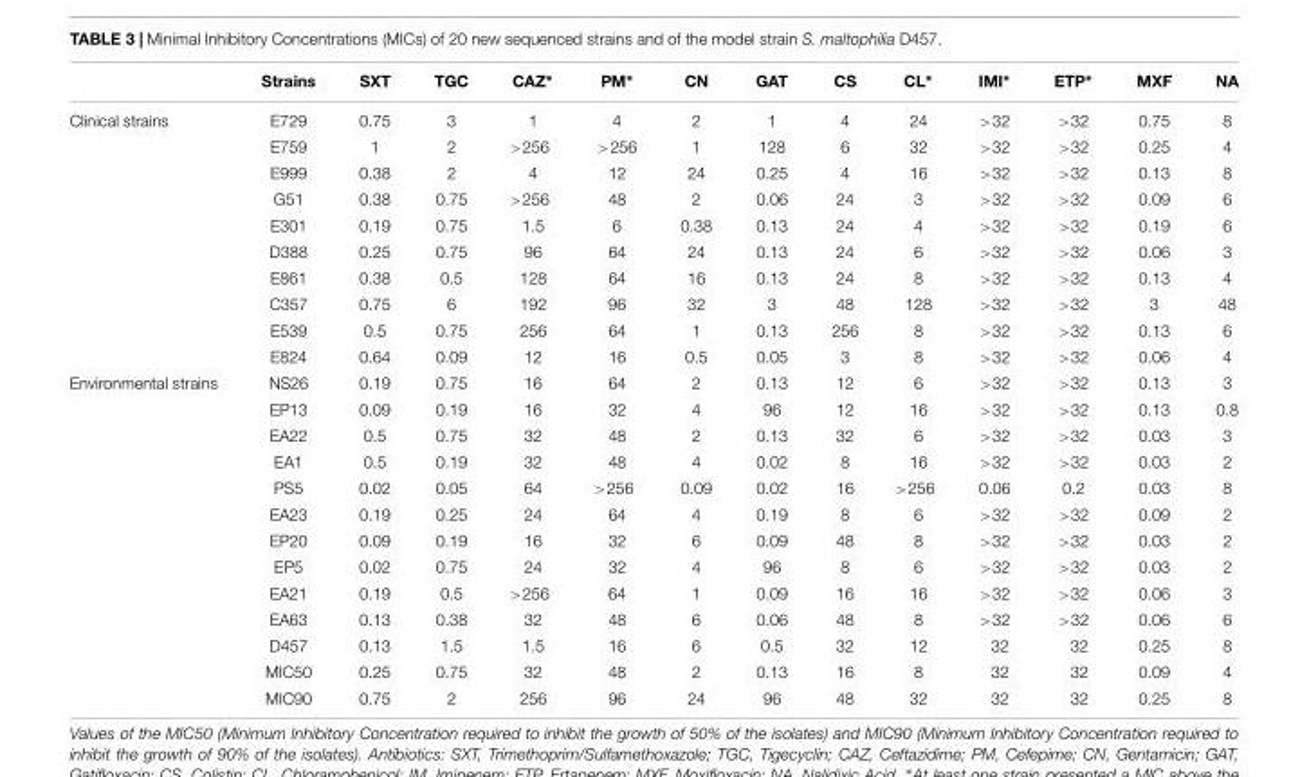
<table><thead><tr><td></td><td>Strains</td><td>SXT</td><td>TGC</td><td>CAZ∗</td><td>PM∗</td><td>CN</td><td>GAT</td><td>CS</td><td>CL∗</td><td>IMI∗</td><td>ETP∗</td><td>MXF</td><td>NA</td></tr></thead><tbody><tr><td rowspan="10">Clinical strains</td><td>E729</td><td>0.75</td><td>3</td><td>1</td><td>4</td><td>2</td><td>1</td><td>4</td><td>24</td><td>&gt;32</td><td>&gt;32</td><td>0.75</td><td>8</td></tr><tr><td>E759</td><td>1</td><td>2</td><td>&gt;256</td><td>&gt;256</td><td>1</td><td>128</td><td>6</td><td>32</td><td>&gt;32</td><td>&gt;32</td><td>0.25</td><td>4</td></tr><tr><td>E999</td><td>0.38</td><td>2</td><td>4</td><td>12</td><td>24</td><td>0.25</td><td>4</td><td>16</td><td>&gt;32</td><td>&gt;32</td><td>0.13</td><td>8</td></tr><tr><td>G51</td><td>0.38</td><td>0.75</td><td>&gt;256</td><td>48</td><td>2</td><td>0.06</td><td>24</td><td>3</td><td>&gt;32</td><td>&gt;32</td><td>0.09</td><td>6</td></tr><tr><td>E301</td><td>0.19</td><td>0.75</td><td>1.5</td><td>6</td><td>0.38</td><td>0.13</td><td>24</td><td>4</td><td>&gt;32</td><td>&gt;32</td><td>0.19</td><td>6</td></tr><tr><td>D388</td><td>0.25</td><td>0.75</td><td>96</td><td>64</td><td>24</td><td>0.13</td><td>24</td><td>6</td><td>&gt;32</td><td>&gt;32</td><td>0.06</td><td>3</td></tr><tr><td>E861</td><td>0.38</td><td>0.5</td><td>128</td><td>64</td><td>16</td><td>0.13</td><td>24</td><td>8</td><td>&gt;32</td><td>&gt;32</td><td>0.13</td><td>4</td></tr><tr><td>C357</td><td>0.75</td><td>6</td><td>192</td><td>96</td><td>32</td><td>3</td><td>48</td><td>128</td><td>&gt;32</td><td>&gt;32</td><td>3</td><td>48</td></tr><tr><td>E539</td><td>0.5</td><td>0.75</td><td>256</td><td>64</td><td>1</td><td>0.13</td><td>256</td><td>8</td><td>&gt;32</td><td>&gt;32</td><td>0.13</td><td>6</td></tr><tr><td>E824</td><td>0.64</td><td>0.09</td><td>12</td><td>16</td><td>0.5</td><td>0.05</td><td>3</td><td>8</td><td>&gt;32</td><td>&gt;32</td><td>0.06</td><td>4</td></tr><tr><td rowspan="13">Environmental strains</td><td>NS26</td><td>0.19</td><td>0.75</td><td>16</td><td>64</td><td>2</td><td>0.13</td><td>12</td><td>6</td><td>&gt;32</td><td>&gt;32</td><td>0.13</td><td>3</td></tr><tr><td>EP13</td><td>0.09</td><td>0.19</td><td>16</td><td>32</td><td>4</td><td>96</td><td>12</td><td>16</td><td>&gt;32</td><td>&gt;32</td><td>0.13</td><td>0.8</td></tr><tr><td>EA22</td><td>0.5</td><td>0.75</td><td>32</td><td>48</td><td>2</td><td>0.13</td><td>32</td><td>6</td><td>&gt;32</td><td>&gt;32</td><td>0.03</td><td>3</td></tr><tr><td>EA1</td><td>0.5</td><td>0.19</td><td>32</td><td>48</td><td>4</td><td>0.02</td><td>8</td><td>16</td><td>&gt;32</td><td>&gt;32</td><td>0.03</td><td>2</td></tr><tr><td>PS5</td><td>0.02</td><td>0.05</td><td>64</td><td>&gt;256</td><td>0.09</td><td>0.02</td><td>16</td><td>&gt;256</td><td>0.06</td><td>0.2</td><td>0.03</td><td>8</td></tr><tr><td>EA23</td><td>0.19</td><td>0.25</td><td>24</td><td>64</td><td>4</td><td>0.19</td><td>8</td><td>6</td><td>&gt;32</td><td>&gt;32</td><td>0.09</td><td>2</td></tr><tr><td>EP20</td><td>0.09</td><td>0.19</td><td>16</td><td>32</td><td>6</td><td>0.09</td><td>48</td><td>8</td><td>&gt;32</td><td>&gt;32</td><td>0.03</td><td>2</td></tr><tr><td>EP5</td><td>0.02</td><td>0.75</td><td>24</td><td>32</td><td>4</td><td>96</td><td>8</td><td>6</td><td>&gt;32</td><td>&gt;32</td><td>0.03</td><td>2</td></tr><tr><td>EA21</td><td>0.19</td><td>0.5</td><td>&gt;256</td><td>64</td><td>1</td><td>0.09</td><td>16</td><td>16</td><td>&gt;32</td><td>&gt;32</td><td>0.06</td><td>3</td></tr><tr><td>EA63</td><td>0.13</td><td>0.38</td><td>32</td><td>48</td><td>6</td><td>0.06</td><td>48</td><td>8</td><td>&gt;32</td><td>&gt;32</td><td>0.06</td><td>6</td></tr><tr><td>D457</td><td>0.13</td><td>1.5</td><td>1.5</td><td>16</td><td>6</td><td>0.5</td><td>32</td><td>12</td><td>32</td><td>32</td><td>0.25</td><td>8</td></tr><tr><td>MIC50</td><td>0.25</td><td>0.75</td><td>32</td><td>48</td><td>2</td><td>0.13</td><td>16</td><td>8</td><td>32</td><td>32</td><td>0.09</td><td>4</td></tr><tr><td>MIC90</td><td>0.75</td><td>2</td><td>256</td><td>96</td><td>24</td><td>96</td><td>48</td><td>32</td><td>32</td><td>32</td><td>0.25</td><td>8</td></tr></tbody></table>